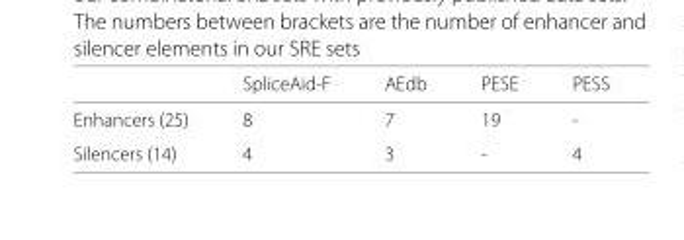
<table><thead><tr><td></td><td>SpliceAid-F</td><td>AEdb</td><td>PESE</td><td>PESS</td></tr></thead><tbody><tr><td>Enhancers (25)</td><td>8</td><td>7</td><td>19</td><td>-</td></tr><tr><td>Silencers (14)</td><td>4</td><td>3</td><td>-</td><td>4</td></tr></tbody></table>